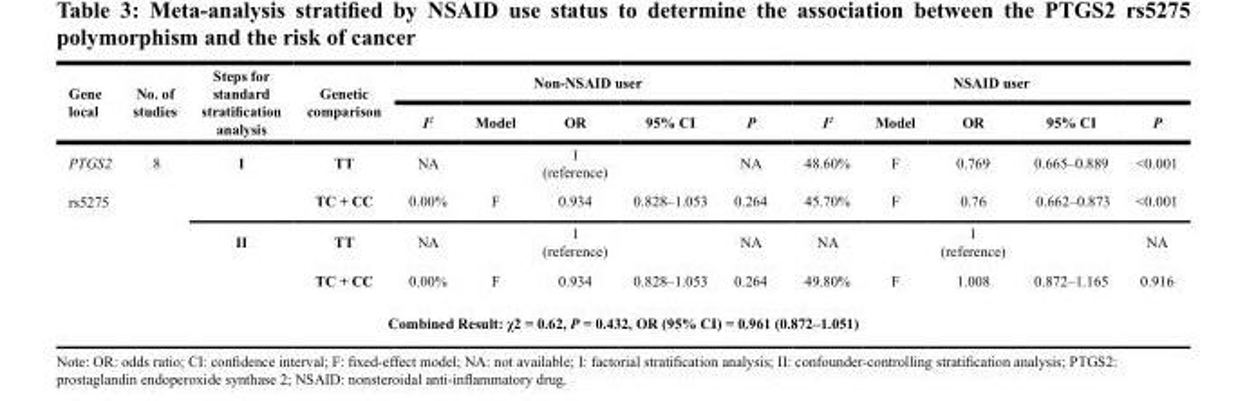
<table><thead><tr><td rowspan="2">Gene local</td><td rowspan="2">No. of studies</td><td rowspan="2">Steps for standard stratification analysis</td><td rowspan="2">Genetic comparison</td><td colspan="5">Non-NSAID user</td><td colspan="5">NSAID user</td></tr><tr><td>I<sup>2</sup></td><td>Model</td><td>OR</td><td>95% CI</td><td>P</td><td>I<sup>2</sup></td><td>Model</td><td>OR</td><td>95% CI</td><td>P</td></tr></thead><tbody><tr><td>PTGS2</td><td>8</td><td>I</td><td>TT</td><td>NA</td><td></td><td>1 (reference)</td><td></td><td>NA</td><td>48.60%</td><td>F</td><td>0.769</td><td>0.665–0.889</td><td>&lt;0.001</td></tr><tr><td rowspan="3">rs5275</td><td></td><td></td><td>TC + CC</td><td>0.00%</td><td>F</td><td>0.934</td><td>0.828–1.053</td><td>0.264</td><td>45.70%</td><td>F</td><td>0.76</td><td>0.662–0.873</td><td>&lt;0.001</td></tr><tr><td></td><td>II</td><td>TT</td><td>NA</td><td></td><td>1 (reference)</td><td></td><td>NA</td><td>NA</td><td></td><td>1 (reference)</td><td></td><td>NA</td></tr><tr><td></td><td></td><td>TC + CC</td><td>0.00%</td><td>F</td><td>0.934</td><td>0.828–1.053</td><td>0.264</td><td>49.80%</td><td>F</td><td>1.008</td><td>0.872–1.165</td><td>0.916</td></tr><tr><td colspan="14">Combined Result: χ2 = 0.62, P = 0.432, OR (95% CI) = 0.961 (0.872–1.051)</td></tr></tbody></table>